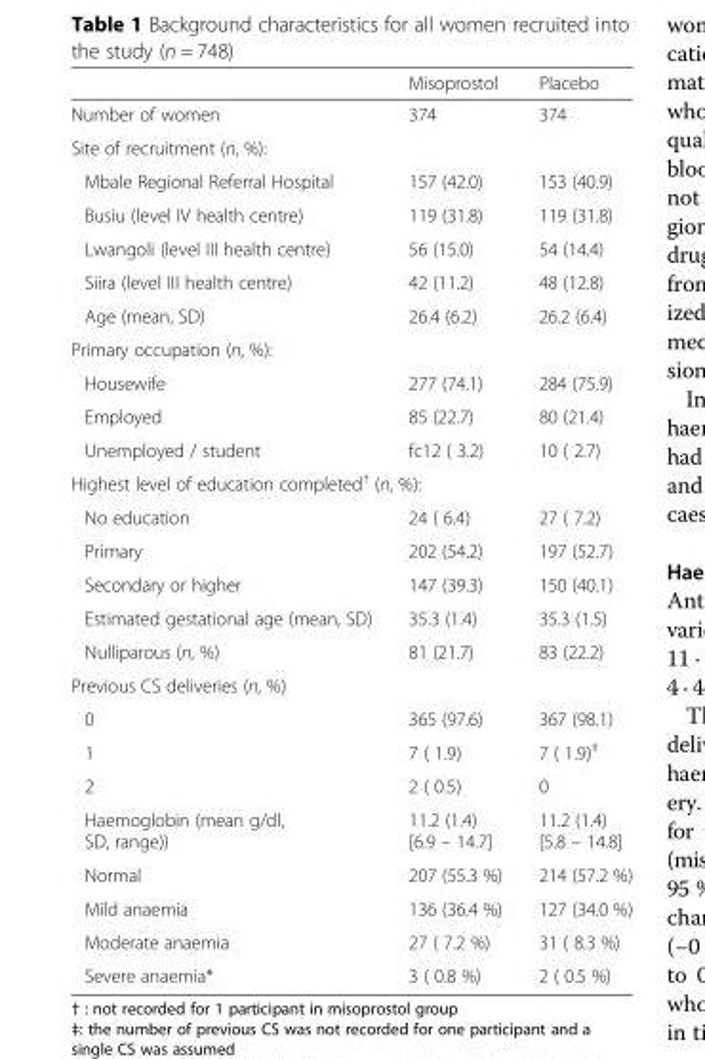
<table><thead><tr><td></td><td>Misoprostol</td><td>Placebo</td></tr></thead><tbody><tr><td>Number of women</td><td>374</td><td>374</td></tr><tr><td colspan="3">Site of recruitment (n, %):</td></tr><tr><td>Mbale Regional Referral Hospital</td><td>157 (42.0)</td><td>153 (40.9)</td></tr><tr><td>Busiu (level IV health centre)</td><td>119 (31.8)</td><td>119 (31.8)</td></tr><tr><td>Lwangoli (level III health centre)</td><td>56 (15.0)</td><td>54 (14.4)</td></tr><tr><td>Siira (level III health centre)</td><td>42 (11.2)</td><td>48 (12.8)</td></tr><tr><td>Age (mean, SD)</td><td>26.4 (6.2)</td><td>26.2 (6.4)</td></tr><tr><td colspan="3">Primary occupation (n, %):</td></tr><tr><td>Housewife</td><td>277 (74.1)</td><td>284 (75.9)</td></tr><tr><td>Employed</td><td>85 (22.7)</td><td>80 (21.4)</td></tr><tr><td>Unemployed / student</td><td>fc12 ( 3.2)</td><td>10 ( 2.7)</td></tr><tr><td colspan="3">Highest level of education completed<sup>†</sup> (n, %):</td></tr><tr><td>No education</td><td>24 ( 6.4)</td><td>27 ( 7.2)</td></tr><tr><td>Primary</td><td>202 (54.2)</td><td>197 (52.7)</td></tr><tr><td>Secondary or higher</td><td>147 (39.3)</td><td>150 (40.1)</td></tr><tr><td>Estimated gestational age (mean, SD)</td><td>35.3 (1.4)</td><td>35.3 (1.5)</td></tr><tr><td>Nulliparous (n, %)</td><td>81 (21.7)</td><td>83 (22.2)</td></tr><tr><td colspan="3">Previous CS deliveries (n, %)</td></tr><tr><td>0</td><td>365 (97.6)</td><td>367 (98.1)</td></tr><tr><td>1</td><td>7 ( 1.9)</td><td>7 ( 1.9)<sup>‡</sup></td></tr><tr><td>2</td><td>2 ( 0.5)</td><td>0</td></tr><tr><td>Haemoglobin (mean g/dl, SD, range))</td><td>11.2 (1.4) [6.9 – 14.7]</td><td>11.2 (1.4) [5.8 – 14.8]</td></tr><tr><td>Normal</td><td>207 (55.3 %)</td><td>214 (57.2 %)</td></tr><tr><td>Mild anaemia</td><td>136 (36.4 %)</td><td>127 (34.0 %)</td></tr><tr><td>Moderate anaemia</td><td>27 ( 7.2 %)</td><td>31 ( 8.3 %)</td></tr><tr><td>Severe anaemia*</td><td>3 ( 0.8 %)</td><td>2 ( 0.5 %)</td></tr></tbody></table>